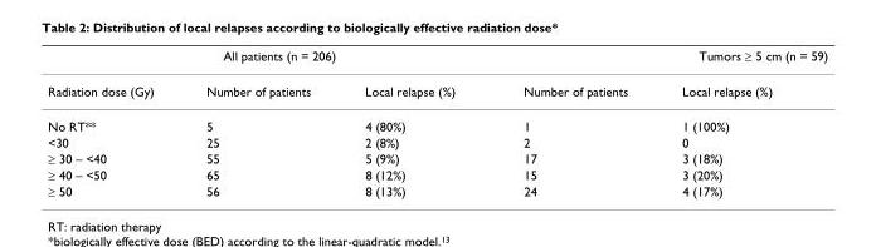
<table><thead><tr><td colspan="3">All patients (n = 206)</td><td colspan="2">Tumors ≥ 5 cm (n = 59)</td></tr><tr><td>Radiation dose (Gy)</td><td>Number of patients</td><td>Local relapse (%)</td><td>Number of patients</td><td>Local relapse (%)</td></tr></thead><tbody><tr><td>No RT**</td><td>5</td><td>4 (80%)</td><td>1</td><td>1 (100%)</td></tr><tr><td>&lt;30</td><td>25</td><td>2 (8%)</td><td>2</td><td>0</td></tr><tr><td>≥ 30 – &lt;40</td><td>55</td><td>5 (9%)</td><td>17</td><td>3 (18%)</td></tr><tr><td>≥ 40 – &lt;50</td><td>65</td><td>8 (12%)</td><td>15</td><td>3 (20%)</td></tr><tr><td>≥ 50</td><td>56</td><td>8 (13%)</td><td>24</td><td>4 (17%)</td></tr></tbody></table>